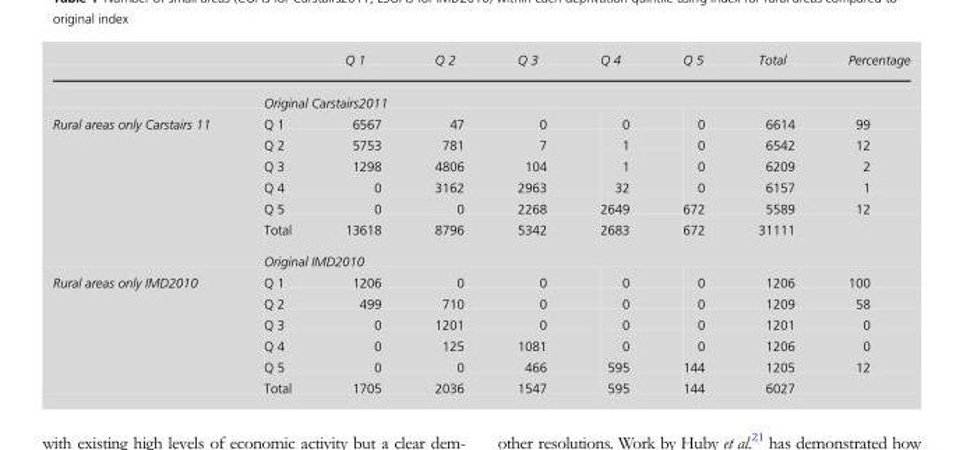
<table><thead><tr><td></td><td></td><td>Q 1</td><td>Q 2</td><td>Q 3</td><td>Q 4</td><td>Q 5</td><td>Total</td><td>Percentage</td></tr></thead><tbody><tr><td></td><td colspan="8">Original Carstairs2011</td></tr><tr><td rowspan="7">Rural areas only Carstairs 11</td><td>Q 1</td><td>6567</td><td>47</td><td>0</td><td>0</td><td>0</td><td>6614</td><td>99</td></tr><tr><td>Q 2</td><td>5753</td><td>781</td><td>7</td><td>1</td><td>0</td><td>6542</td><td>12</td></tr><tr><td>Q 3</td><td>1298</td><td>4806</td><td>104</td><td>1</td><td>0</td><td>6209</td><td>2</td></tr><tr><td>Q 4</td><td>0</td><td>3162</td><td>2963</td><td>32</td><td>0</td><td>6157</td><td>1</td></tr><tr><td>Q 5</td><td>0</td><td>0</td><td>2268</td><td>2649</td><td>672</td><td>5589</td><td>12</td></tr><tr><td>Total</td><td>13618</td><td>8796</td><td>5342</td><td>2683</td><td>672</td><td>31111</td><td></td></tr><tr><td colspan="8">Original IMD2010</td></tr><tr><td rowspan="6">Rural areas only IMD2010</td><td>Q 1</td><td>1206</td><td>0</td><td>0</td><td>0</td><td>0</td><td>1206</td><td>100</td></tr><tr><td>Q 2</td><td>499</td><td>710</td><td>0</td><td>0</td><td>0</td><td>1209</td><td>58</td></tr><tr><td>Q 3</td><td>0</td><td>1201</td><td>0</td><td>0</td><td>0</td><td>1201</td><td>0</td></tr><tr><td>Q 4</td><td>0</td><td>125</td><td>1081</td><td>0</td><td>0</td><td>1206</td><td>0</td></tr><tr><td>Q 5</td><td>0</td><td>0</td><td>466</td><td>595</td><td>144</td><td>1205</td><td>12</td></tr><tr><td>Total</td><td>1705</td><td>2036</td><td>1547</td><td>595</td><td>144</td><td>6027</td><td></td></tr></tbody></table>